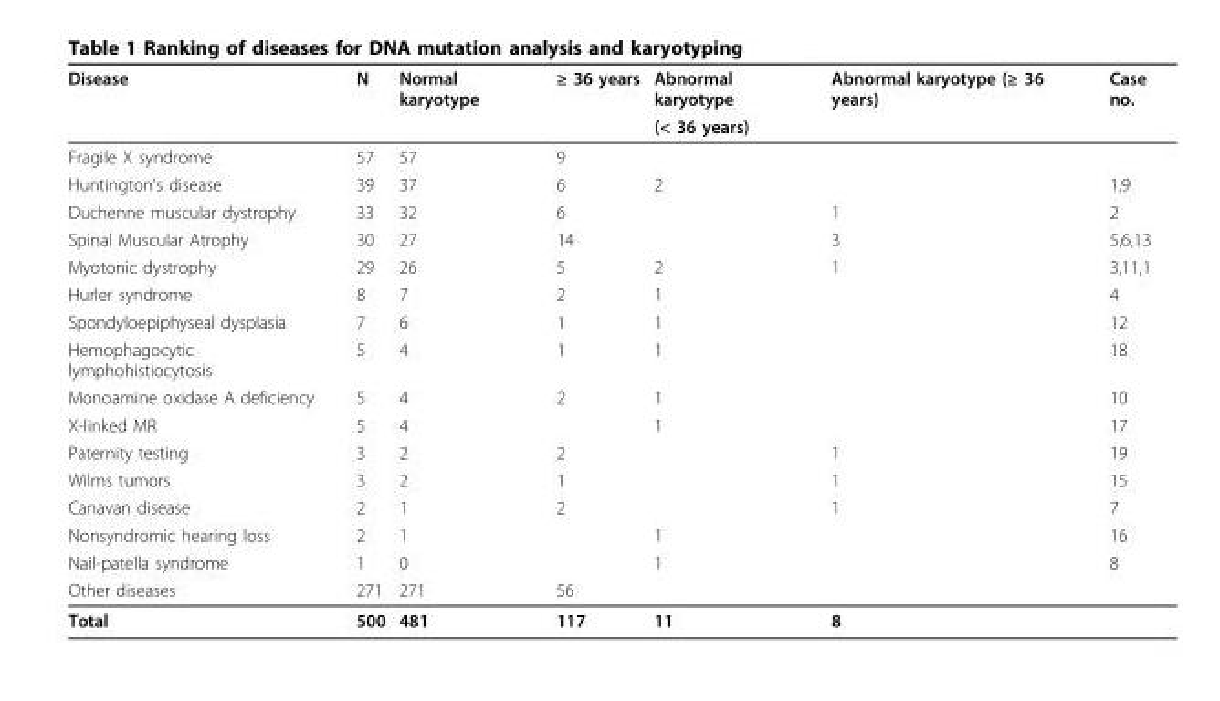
<table><thead><tr><td rowspan="2">Disease</td><td rowspan="2">N</td><td rowspan="2">Normal karyotype</td><td rowspan="2">≥ 36 years</td><td rowspan="2">Abnormal karyotype (&lt; 36 years)</td><td rowspan="2">Abnormal karyotype (≥ 36 years)</td><td rowspan="2">Case no.</td></tr><tr></tr></thead><tbody><tr><td>Fragile X syndrome</td><td>57</td><td>57</td><td>9</td><td></td><td></td><td></td></tr><tr><td>Huntington’s disease</td><td>39</td><td>37</td><td>6</td><td>2</td><td></td><td>1,9</td></tr><tr><td>Duchenne muscular dystrophy</td><td>33</td><td>32</td><td>6</td><td></td><td>1</td><td>2</td></tr><tr><td>Spinal Muscular Atrophy</td><td>30</td><td>27</td><td>14</td><td></td><td>3</td><td>5,6,13</td></tr><tr><td>Myotonic dystrophy</td><td>29</td><td>26</td><td>5</td><td>2</td><td>1</td><td>3,11,1</td></tr><tr><td>Hurler syndrome</td><td>8</td><td>7</td><td>2</td><td>1</td><td></td><td>4</td></tr><tr><td>Spondyloepiphyseal dysplasia</td><td>7</td><td>6</td><td>1</td><td>1</td><td></td><td>12</td></tr><tr><td>Hemophagocytic lymphohistiocytosis</td><td>5</td><td>4</td><td>1</td><td>1</td><td></td><td>18</td></tr><tr><td>Monoamine oxidase A deficiency</td><td>5</td><td>4</td><td>2</td><td>1</td><td></td><td>10</td></tr><tr><td>X-linked MR</td><td>5</td><td>4</td><td></td><td>1</td><td></td><td>17</td></tr><tr><td>Paternity testing</td><td>3</td><td>2</td><td>2</td><td></td><td>1</td><td>19</td></tr><tr><td>Wilms tumors</td><td>3</td><td>2</td><td>1</td><td></td><td>1</td><td>15</td></tr><tr><td>Canavan disease</td><td>2</td><td>1</td><td>2</td><td></td><td>1</td><td>7</td></tr><tr><td>Nonsyndromic hearing loss</td><td>2</td><td>1</td><td></td><td>1</td><td></td><td>16</td></tr><tr><td>Nail-patella syndrome</td><td>1</td><td>0</td><td></td><td>1</td><td></td><td>8</td></tr><tr><td>Other diseases</td><td>271</td><td>271</td><td>56</td><td></td><td></td><td></td></tr><tr><td>Total</td><td>500</td><td>481</td><td>117</td><td>11</td><td>8</td><td></td></tr></tbody></table>